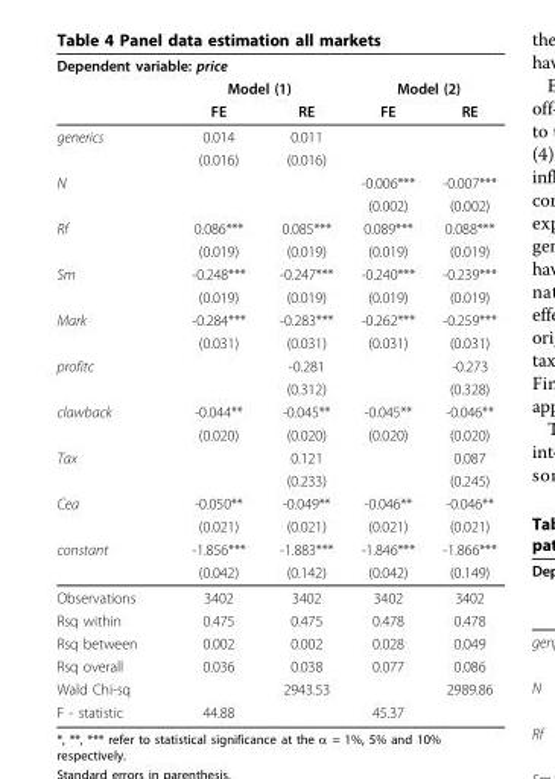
<table><thead><tr><td colspan="2">Dependent variable: price</td><td></td><td></td><td></td></tr><tr><td rowspan="2"></td><td colspan="2">Model (1)</td><td colspan="2">Model (2)</td></tr><tr><td>FE</td><td>RE</td><td>FE</td><td>RE</td></tr></thead><tbody><tr><td rowspan="2">generics</td><td>0.014</td><td>0.011</td><td></td><td></td></tr><tr><td>(0.016)</td><td>(0.016)</td><td></td><td></td></tr><tr><td rowspan="2">N</td><td></td><td></td><td>-0.006***</td><td>-0.007***</td></tr><tr><td></td><td></td><td>(0.002)</td><td>(0.002)</td></tr><tr><td rowspan="2">Rf</td><td>0.086***</td><td>0.085***</td><td>0.089***</td><td>0.088***</td></tr><tr><td>(0.019)</td><td>(0.019)</td><td>(0.019)</td><td>(0.019)</td></tr><tr><td rowspan="2">Sm</td><td>-0.248***</td><td>-0.247***</td><td>-0.240***</td><td>-0.239***</td></tr><tr><td>(0.019)</td><td>(0.019)</td><td>(0.019)</td><td>(0.019)</td></tr><tr><td rowspan="2">Mark</td><td>-0.284***</td><td>-0.283***</td><td>-0.262***</td><td>-0.259***</td></tr><tr><td>(0.031)</td><td>(0.031)</td><td>(0.031)</td><td>(0.031)</td></tr><tr><td rowspan="2">profitc</td><td></td><td>-0.281</td><td></td><td>-0.273</td></tr><tr><td></td><td>(0.312)</td><td></td><td>(0.328)</td></tr><tr><td rowspan="2">clawback</td><td>-0.044**</td><td>-0.045**</td><td>-0.045**</td><td>-0.046**</td></tr><tr><td>(0.020)</td><td>(0.020)</td><td>(0.020)</td><td>(0.020)</td></tr><tr><td rowspan="2">Tax</td><td></td><td>0.121</td><td></td><td>0.087</td></tr><tr><td></td><td>(0.233)</td><td></td><td>(0.245)</td></tr><tr><td rowspan="2">Cea</td><td>-0.050**</td><td>-0.049**</td><td>-0.046**</td><td>-0.046**</td></tr><tr><td>(0.021)</td><td>(0.021)</td><td>(0.021)</td><td>(0.021)</td></tr><tr><td rowspan="2">constant</td><td>-1.856***</td><td>-1.883***</td><td>-1.846***</td><td>-1.866***</td></tr><tr><td>(0.042)</td><td>(0.142)</td><td>(0.042)</td><td>(0.149)</td></tr><tr><td>Observations</td><td>3402</td><td>3402</td><td>3402</td><td>3402</td></tr><tr><td>Rsq within</td><td>0.475</td><td>0.475</td><td>0.478</td><td>0.478</td></tr><tr><td>Rsq between</td><td>0.002</td><td>0.002</td><td>0.028</td><td>0.049</td></tr><tr><td>Rsq overall</td><td>0.036</td><td>0.038</td><td>0.077</td><td>0.086</td></tr><tr><td>Wald Chi-sq</td><td></td><td>2943.53</td><td></td><td>2989.86</td></tr><tr><td>F - statistic</td><td>44.88</td><td></td><td>45.37</td><td></td></tr></tbody></table>